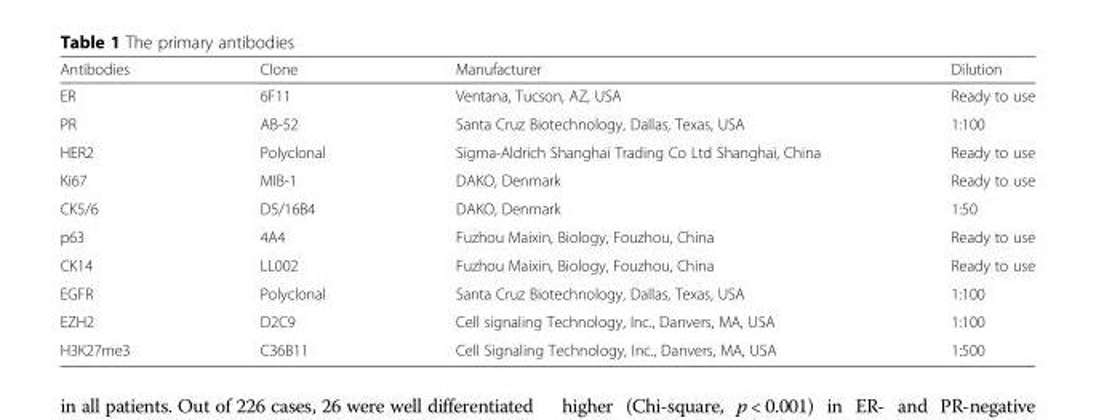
<table><thead><tr><td>Antibodies</td><td>Clone</td><td>Manufacturer</td><td>Dilution</td></tr></thead><tbody><tr><td>ER</td><td>6F11</td><td>Ventana, Tucson, AZ, USA</td><td>Ready to use</td></tr><tr><td>PR</td><td>AB-52</td><td>Santa Cruz Biotechnology, Dallas, Texas, USA</td><td>1:100</td></tr><tr><td>HER2</td><td>Polyclonal</td><td>Sigma-Aldrich Shanghai Trading Co Ltd Shanghai, China</td><td>Ready to use</td></tr><tr><td>Ki67</td><td>MIB-1</td><td>DAKO, Denmark</td><td>Ready to use</td></tr><tr><td>CK5/6</td><td>D5/16B4</td><td>DAKO, Denmark</td><td>1:50</td></tr><tr><td>p63</td><td>4A4</td><td>Fuzhou Maixin, Biology, Fouzhou, China</td><td>Ready to use</td></tr><tr><td>CK14</td><td>LL002</td><td>Fuzhou Maixin, Biology, Fouzhou, China</td><td>Ready to use</td></tr><tr><td>EGFR</td><td>Polyclonal</td><td>Santa Cruz Biotechnology, Dallas, Texas, USA</td><td>1:100</td></tr><tr><td>EZH2</td><td>D2C9</td><td>Cell signaling Technology, Inc., Danvers, MA, USA</td><td>1:100</td></tr><tr><td>H3K27me3</td><td>C36B11</td><td>Cell Signaling Technology, Inc., Danvers, MA, USA</td><td>1:500</td></tr></tbody></table>